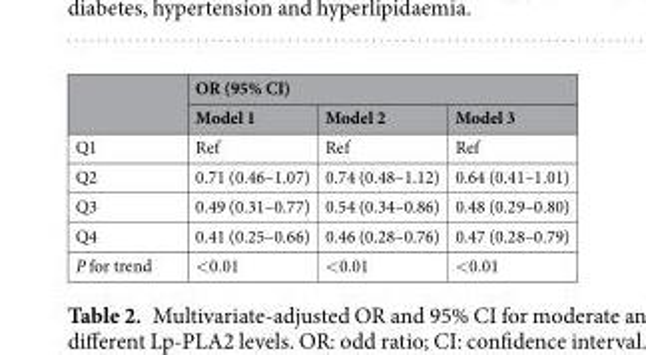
<table><thead><tr><td rowspan="2"></td><td colspan="3">OR (95% CI)</td></tr><tr><td>Model 1</td><td>Model 2</td><td>Model 3</td></tr></thead><tbody><tr><td>Q1</td><td>Ref</td><td>Ref</td><td>Ref</td></tr><tr><td>Q2</td><td>0.71 (0.46–1.07)</td><td>0.74 (0.48–1.12)</td><td>0.64 (0.41–1.01)</td></tr><tr><td>Q3</td><td>0.49 (0.31–0.77)</td><td>0.54 (0.34–0.86)</td><td>0.48 (0.29–0.80)</td></tr><tr><td>Q4</td><td>0.41 (0.25–0.66)</td><td>0.46 (0.28–0.76)</td><td>0.47 (0.28–0.79)</td></tr><tr><td>P for trend</td><td>&lt;0.01</td><td>&lt;0.01</td><td>&lt;0.01</td></tr></tbody></table>